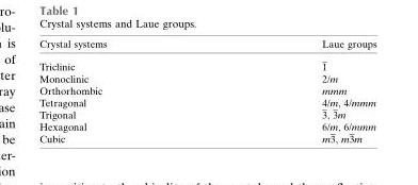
<table><thead><tr><td>Crystal systems</td><td>Laue groups</td></tr></thead><tbody><tr><td colspan="2">Triclinic 1</td></tr><tr><td>Monoclinic</td><td>2/m</td></tr><tr><td>Orthorhombic</td><td>mmm</td></tr><tr><td>Tetragonal</td><td>4/m, 4/mmm</td></tr><tr><td>Trigonal</td><td>3, 3m</td></tr><tr><td>Hexagonal</td><td>6/m, 6/mmm</td></tr><tr><td>Cubic</td><td>m3, m3m</td></tr></tbody></table>